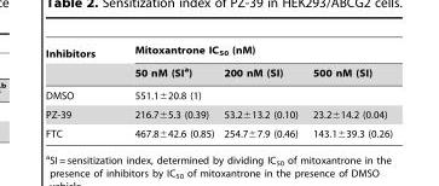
<table><thead><tr><td rowspan="2">Inhibitors</td><td colspan="3">Mitoxantrone IC<sub>50</sub> (nM)</td></tr><tr><td>50 nM (SI<sup>a</sup>)</td><td>200 nM (SI)</td><td>500 nM (SI)</td></tr></thead><tbody><tr><td>DMSO</td><td colspan="3">551.1±20.8 (1)</td></tr><tr><td>PZ-39</td><td>216.7±5.3 (0.39)</td><td>53.2±13.2 (0.10)</td><td>23.2±14.2 (0.04)</td></tr><tr><td>FTC</td><td>467.8±42.6 (0.85)</td><td>254.7±7.9 (0.46)</td><td>143.1±39.3 (0.26)</td></tr></tbody></table>